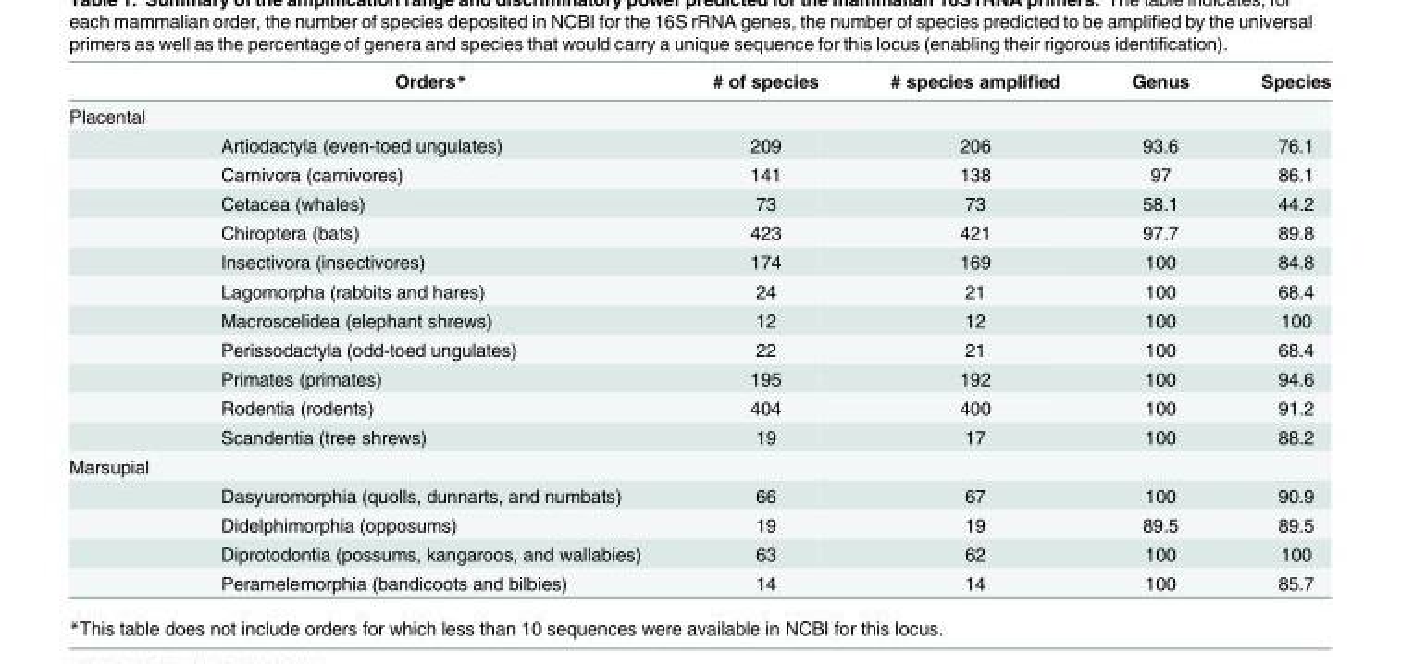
<table><thead><tr><td></td><td>Orders*</td><td># of species</td><td># species amplified</td><td>Genus</td><td>Species</td></tr></thead><tbody><tr><td colspan="6">Placental</td></tr><tr><td></td><td>Artiodactyla (even-toed ungulates)</td><td>209</td><td>206</td><td>93.6</td><td>76.1</td></tr><tr><td></td><td>Carnivora (carnivores)</td><td>141</td><td>138</td><td>97</td><td>86.1</td></tr><tr><td></td><td>Cetacea (whales)</td><td>73</td><td>73</td><td>58.1</td><td>44.2</td></tr><tr><td></td><td>Chiroptera (bats)</td><td>423</td><td>421</td><td>97.7</td><td>89.8</td></tr><tr><td></td><td>Insectivora (insectivores)</td><td>174</td><td>169</td><td>100</td><td>84.8</td></tr><tr><td></td><td>Lagomorpha (rabbits and hares)</td><td>24</td><td>21</td><td>100</td><td>68.4</td></tr><tr><td></td><td>Macroscelidea (elephant shrews)</td><td>12</td><td>12</td><td>100</td><td>100</td></tr><tr><td></td><td>Perissodactyla (odd-toed ungulates)</td><td>22</td><td>21</td><td>100</td><td>68.4</td></tr><tr><td></td><td>Primates (primates)</td><td>195</td><td>192</td><td>100</td><td>94.6</td></tr><tr><td></td><td>Rodentia (rodents)</td><td>404</td><td>400</td><td>100</td><td>91.2</td></tr><tr><td></td><td>Scandentia (tree shrews)</td><td>19</td><td>17</td><td>100</td><td>88.2</td></tr><tr><td colspan="6">Marsupial</td></tr><tr><td></td><td>Dasyuromorphia (quolls, dunnarts, and numbats)</td><td>66</td><td>67</td><td>100</td><td>90.9</td></tr><tr><td></td><td>Didelphimorphia (opposums)</td><td>19</td><td>19</td><td>89.5</td><td>89.5</td></tr><tr><td></td><td>Diprotodontia (possums, kangaroos, and wallabies)</td><td>63</td><td>62</td><td>100</td><td>100</td></tr><tr><td></td><td>Peramelemorphia (bandicoots and bilbies)</td><td>14</td><td>14</td><td>100</td><td>85.7</td></tr></tbody></table>